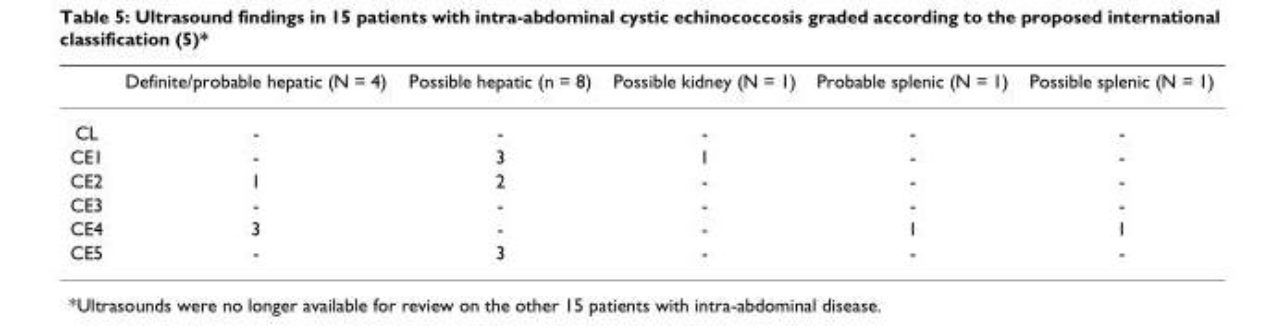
<table><thead><tr><td></td><td>Definite/probable hepatic (N = 4)</td><td>Possible hepatic (n = 8)</td><td>Possible kidney (N = 1)</td><td>Probable splenic (N = 1)</td><td>Possible splenic (N = 1)</td></tr></thead><tbody><tr><td>CL</td><td>-</td><td>-</td><td>-</td><td>-</td><td>-</td></tr><tr><td>CE1</td><td>-</td><td>3</td><td>1</td><td>-</td><td>-</td></tr><tr><td>CE2</td><td>1</td><td>2</td><td>-</td><td>-</td><td>-</td></tr><tr><td>CE3</td><td>-</td><td>-</td><td>-</td><td>-</td><td>-</td></tr><tr><td>CE4</td><td>3</td><td>-</td><td>-</td><td>1</td><td>1</td></tr><tr><td>CE5</td><td>-</td><td>3</td><td>-</td><td>-</td><td>-</td></tr></tbody></table>